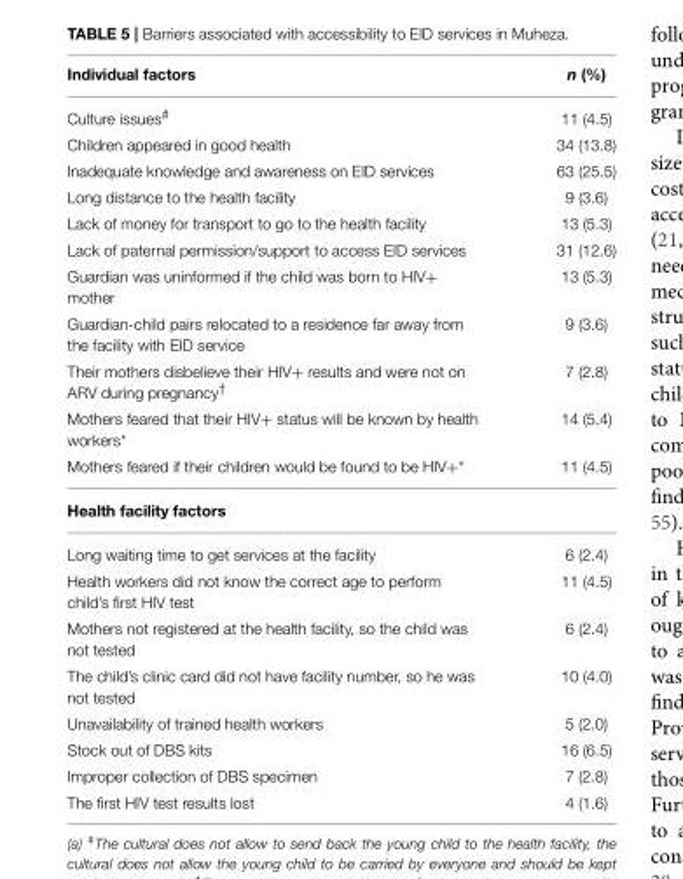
<table><thead><tr><td>Individual factors</td><td>n (%)</td></tr></thead><tbody><tr><td>Culture issues<sup>#</sup></td><td>11 (4.5)</td></tr><tr><td>Children appeared in good health</td><td>34 (13.8)</td></tr><tr><td>Inadequate knowledge and awareness on EID services</td><td>63 (25.5)</td></tr><tr><td>Long distance to the health facility</td><td>9 (3.6)</td></tr><tr><td>Lack of money for transport to go to the health facility</td><td>13 (5.3)</td></tr><tr><td>Lack of paternal permission/support to access EID services</td><td>31 (12.6)</td></tr><tr><td>Guardian was uninformed if the child was born to HIV+ mother</td><td>13 (5.3)</td></tr><tr><td>Guardian-child pairs relocated to a residence far away from the facility with EID service</td><td>9 (3.6)</td></tr><tr><td>Their mothers disbelieve their HIV+ results and were not on ARV during pregnancy<sup>†</sup></td><td>7 (2.8)</td></tr><tr><td>Mothers feared that their HIV+ status will be known by health workers*</td><td>14 (5.4)</td></tr><tr><td>Mothers feared if their children would be found to be HIV+*</td><td>11 (4.5)</td></tr><tr><td colspan="2">Health facility factors</td></tr><tr><td>Long waiting time to get services at the facility</td><td>6 (2.4)</td></tr><tr><td>Health workers did not know the correct age to perform child’s first HIV test</td><td>11 (4.5)</td></tr><tr><td>Mothers not registered at the health facility, so the child was not tested</td><td>6 (2.4)</td></tr><tr><td>The child’s clinic card did not have facility number, so he was not tested</td><td>10 (4.0)</td></tr><tr><td>Unavailability of trained health workers</td><td>5 (2.0)</td></tr><tr><td>Stock out of DBS kits</td><td>16 (6.5)</td></tr><tr><td>Improper collection of DBS specimen</td><td>7 (2.8)</td></tr><tr><td>The first HIV test results lost</td><td>4 (1.6)</td></tr></tbody></table>